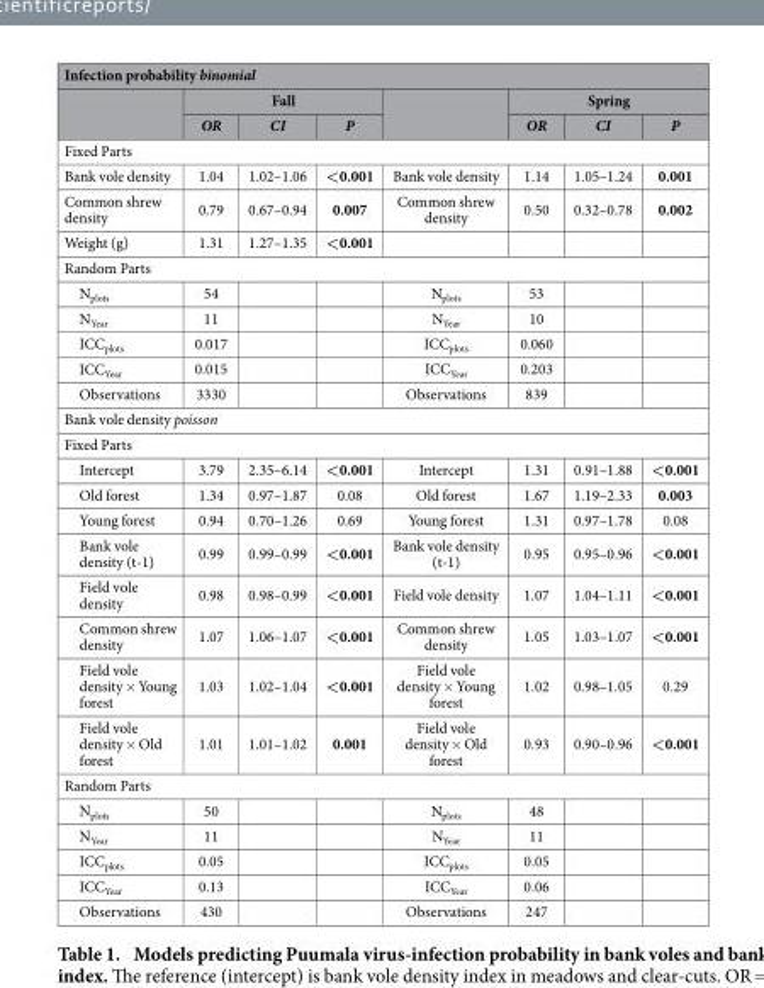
<table><thead><tr><td colspan="8">Infection probability binomial</td></tr><tr><td rowspan="2"></td><td colspan="3">Fall</td><td rowspan="2"></td><td colspan="3">Spring</td></tr><tr><td>OR</td><td>CI</td><td>P</td><td>OR</td><td>CI</td><td>P</td></tr></thead><tbody><tr><td colspan="8">Fixed Parts</td></tr><tr><td>Bank vole density</td><td>1.04</td><td>1.02–1.06</td><td>&lt;0.001</td><td>Bank vole density</td><td>1.14</td><td>1.05–1.24</td><td>0.001</td></tr><tr><td>Common shrew density</td><td>0.79</td><td>0.67–0.94</td><td>0.007</td><td>Common shrew density</td><td>0.50</td><td>0.32–0.78</td><td>0.002</td></tr><tr><td>Weight (g)</td><td>1.31</td><td>1.27–1.35</td><td>&lt;0.001</td><td></td><td></td><td></td><td></td></tr><tr><td colspan="8">Random Parts</td></tr><tr><td>N<sub>plots</sub></td><td>54</td><td></td><td></td><td>N<sub>plots</sub></td><td>53</td><td></td><td></td></tr><tr><td>N<sub>Year</sub></td><td>11</td><td></td><td></td><td>N<sub>Year</sub></td><td>10</td><td></td><td></td></tr><tr><td>ICC<sub>plots</sub></td><td>0.017</td><td></td><td></td><td>ICC<sub>plots</sub></td><td>0.060</td><td></td><td></td></tr><tr><td>ICC<sub>Year</sub></td><td>0.015</td><td></td><td></td><td>ICC<sub>Year</sub></td><td>0.203</td><td></td><td></td></tr><tr><td>Observations</td><td>3330</td><td></td><td></td><td>Observations</td><td>839</td><td></td><td></td></tr><tr><td colspan="8">Bank vole density poisson</td></tr><tr><td colspan="8">Fixed Parts</td></tr><tr><td>Intercept</td><td>3.79</td><td>2.35–6.14</td><td>&lt;0.001</td><td>Intercept</td><td>1.31</td><td>0.91–1.88</td><td>&lt;0.001</td></tr><tr><td>Old forest</td><td>1.34</td><td>0.97–1.87</td><td>0.08</td><td>Old forest</td><td>1.67</td><td>1.19–2.33</td><td>0.003</td></tr><tr><td>Young forest</td><td>0.94</td><td>0.70–1.26</td><td>0.69</td><td>Young forest</td><td>1.31</td><td>0.97–1.78</td><td>0.08</td></tr><tr><td>Bank vole density (t-1)</td><td>0.99</td><td>0.99–0.99</td><td>&lt;0.001</td><td>Bank vole density (t-1)</td><td>0.95</td><td>0.95–0.96</td><td>&lt;0.001</td></tr><tr><td>Field vole density</td><td>0.98</td><td>0.98–0.99</td><td>&lt;0.001</td><td>Field vole density</td><td>1.07</td><td>1.04–1.11</td><td>&lt;0.001</td></tr><tr><td>Common shrew density</td><td>1.07</td><td>1.06–1.07</td><td>&lt;0.001</td><td>Common shrew density</td><td>1.05</td><td>1.03–1.07</td><td>&lt;0.001</td></tr><tr><td>Field vole density × Young forest</td><td>1.03</td><td>1.02–1.04</td><td>&lt;0.001</td><td>Field vole density × Young forest</td><td>1.02</td><td>0.98–1.05</td><td>0.29</td></tr><tr><td>Field vole density × Old forest</td><td>1.01</td><td>1.01–1.02</td><td>0.001</td><td>Field vole density × Old forest</td><td>0.93</td><td>0.90–0.96</td><td>&lt;0.001</td></tr><tr><td colspan="8">Random Parts</td></tr><tr><td>N<sub>plots</sub></td><td>50</td><td></td><td></td><td>N<sub>plots</sub></td><td>48</td><td></td><td></td></tr><tr><td>N<sub>Year</sub></td><td>11</td><td></td><td></td><td>N<sub>Year</sub></td><td>11</td><td></td><td></td></tr><tr><td>ICC<sub>plots</sub></td><td>0.05</td><td></td><td></td><td>ICC<sub>plots</sub></td><td>0.05</td><td></td><td></td></tr><tr><td>ICC<sub>Year</sub></td><td>0.13</td><td></td><td></td><td>ICC<sub>Year</sub></td><td>0.06</td><td></td><td></td></tr><tr><td>Observations</td><td>430</td><td></td><td></td><td>Observations</td><td>247</td><td></td><td></td></tr></tbody></table>